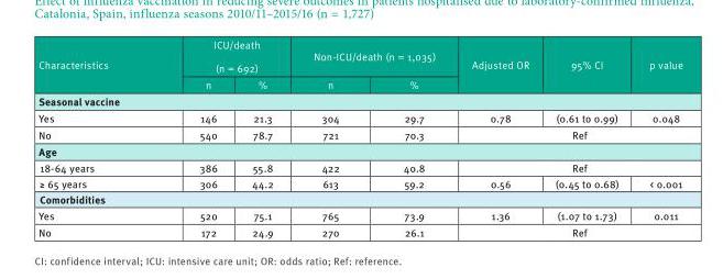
<table><thead><tr><td rowspan="2">Characteristics</td><td colspan="2">ICU/death (n = 692)</td><td colspan="2">Non-ICU/death (n = 1,035)</td><td rowspan="2">Adjusted OR</td><td rowspan="2">95% CI</td><td rowspan="2">p value</td></tr><tr><td>n</td><td>%</td><td>n</td><td>%</td></tr></thead><tbody><tr><td colspan="8">Seasonal vaccine</td></tr><tr><td>Yes</td><td>146</td><td>21.3</td><td>304</td><td>29.7</td><td>0.78</td><td>(0.61 to 0.99)</td><td>0.048</td></tr><tr><td>No</td><td>540</td><td>78.7</td><td>721</td><td>70.3</td><td colspan="3">Ref</td></tr><tr><td colspan="8">Age</td></tr><tr><td>18-64 years</td><td>386</td><td>55.8</td><td>422</td><td>40.8</td><td colspan="3">Ref</td></tr><tr><td>≥ 65 years</td><td>306</td><td>44.2</td><td>613</td><td>59.2</td><td>0.56</td><td>(0.45 to 0.68)</td><td>&lt; 0.001</td></tr><tr><td colspan="8">Comorbidities</td></tr><tr><td>Yes</td><td>520</td><td>75.1</td><td>765</td><td>73.9</td><td>1.36</td><td>(1.07 to 1.73)</td><td>0.011</td></tr><tr><td>No</td><td>172</td><td>24.9</td><td>270</td><td>26.1</td><td colspan="3">Ref</td></tr></tbody></table>